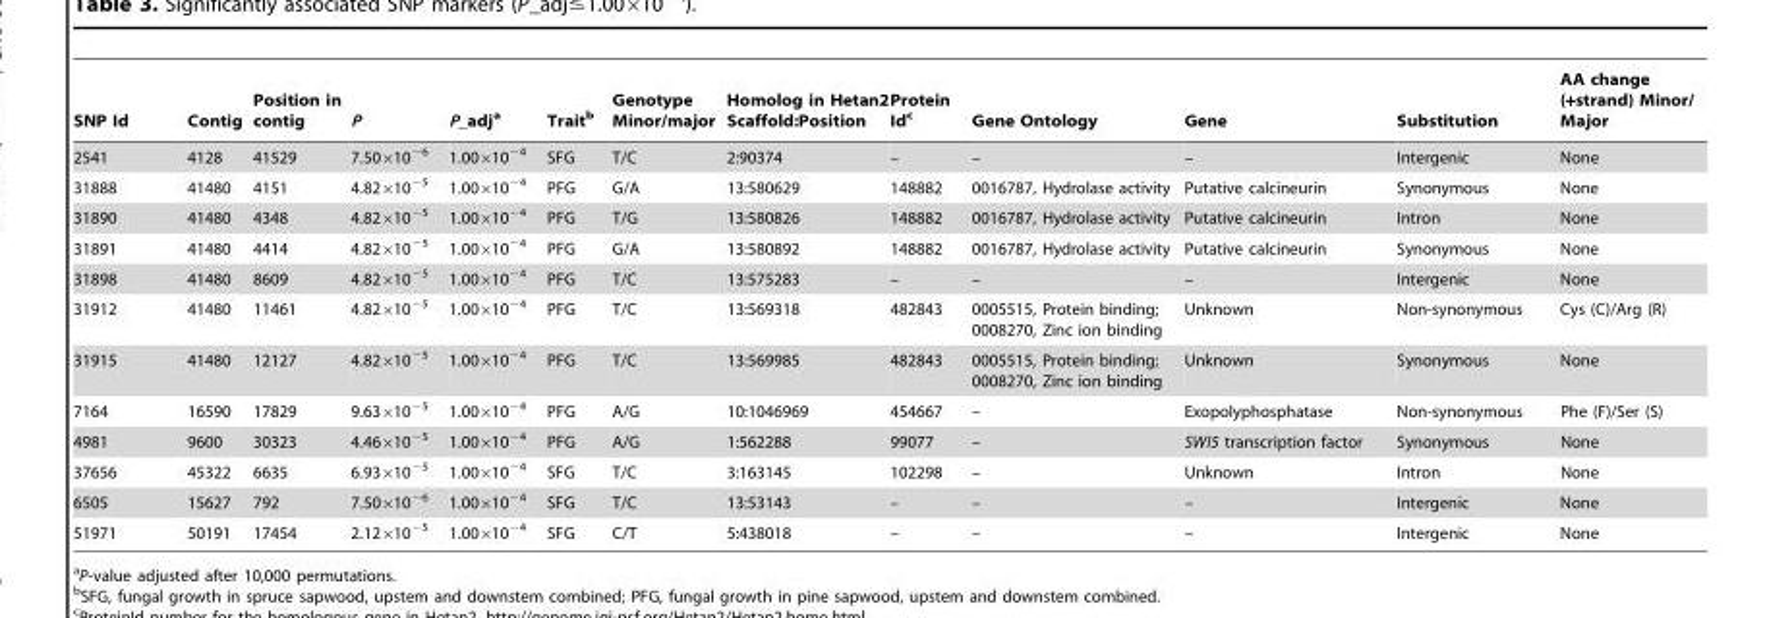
<table><thead><tr><td>SNP Id</td><td>Contig</td><td>Position in contig</td><td>P</td><td>P_adj<sup>a</sup></td><td>Trait<sup>b</sup></td><td>Genotype Minor/major</td><td>Homolog in Hetan2 Scaffold:Position</td><td>Protein Id<sup>c</sup></td><td>Gene Ontology</td><td>Gene</td><td>Substitution</td><td>AA change (+strand) Minor/ Major</td></tr></thead><tbody><tr><td>2541</td><td>4128</td><td>41529</td><td>7.50×10<sup>−6</sup></td><td>1.00×10<sup>−4</sup></td><td>SFG</td><td>T/C</td><td>2:90374</td><td>–</td><td>–</td><td>–</td><td>Intergenic</td><td>None</td></tr><tr><td>31888</td><td>41480</td><td>4151</td><td>4.82×10<sup>−5</sup></td><td>1.00×10<sup>−4</sup></td><td>PFG</td><td>G/A</td><td>13:580629</td><td>148882</td><td>0016787, Hydrolase activity</td><td>Putative calcineurin</td><td>Synonymous</td><td>None</td></tr><tr><td>31890</td><td>41480</td><td>4348</td><td>4.82×10<sup>−5</sup></td><td>1.00×10<sup>−4</sup></td><td>PFG</td><td>T/G</td><td>13:580826</td><td>148882</td><td>0016787, Hydrolase activity</td><td>Putative calcineurin</td><td>Intron</td><td>None</td></tr><tr><td>31891</td><td>41480</td><td>4414</td><td>4.82×10<sup>−5</sup></td><td>1.00×10<sup>−4</sup></td><td>PFG</td><td>G/A</td><td>13:580892</td><td>148882</td><td>0016787, Hydrolase activity</td><td>Putative calcineurin</td><td>Synonymous</td><td>None</td></tr><tr><td>31898</td><td>41480</td><td>8609</td><td>4.82×10<sup>−5</sup></td><td>1.00×10<sup>−4</sup></td><td>PFG</td><td>T/C</td><td>13:575283</td><td>–</td><td>–</td><td>–</td><td>Intergenic</td><td>None</td></tr><tr><td>31912</td><td>41480</td><td>11461</td><td>4.82×10<sup>−5</sup></td><td>1.00×10<sup>−4</sup></td><td>PFG</td><td>T/C</td><td>13:569318</td><td>482843</td><td>0005515, Protein binding; 0008270, Zinc ion binding</td><td>Unknown</td><td>Non-synonymous</td><td>Cys (C)/Arg (R)</td></tr><tr><td>31915</td><td>41480</td><td>12127</td><td>4.82×10<sup>−5</sup></td><td>1.00×10<sup>−4</sup></td><td>PFG</td><td>T/C</td><td>13:569985</td><td>482843</td><td>0005515, Protein binding; 0008270, Zinc ion binding</td><td>Unknown</td><td>Synonymous</td><td>None</td></tr><tr><td>7164</td><td>16590</td><td>17829</td><td>9.63×10<sup>−5</sup></td><td>1.00×10<sup>−4</sup></td><td>PFG</td><td>A/G</td><td>10:1046969</td><td>454667</td><td>–</td><td>Exopolyphosphatase</td><td>Non-synonymous</td><td>Phe (F)/Ser (S)</td></tr><tr><td>4981</td><td>9600</td><td>30323</td><td>4.46×10<sup>−5</sup></td><td>1.00×10<sup>−4</sup></td><td>PFG</td><td>A/G</td><td>1:562288</td><td>99077</td><td>–</td><td>SWI5 transcription factor</td><td>Synonymous</td><td>None</td></tr><tr><td>37656</td><td>45322</td><td>6635</td><td>6.93×10<sup>−5</sup></td><td>1.00×10<sup>−4</sup></td><td>SFG</td><td>T/C</td><td>3:163145</td><td>102298</td><td>–</td><td>Unknown</td><td>Intron</td><td>None</td></tr><tr><td>6505</td><td>15627</td><td>792</td><td>7.50×10<sup>−6</sup></td><td>1.00×10<sup>−4</sup></td><td>SFG</td><td>T/C</td><td>13:53143</td><td>–</td><td>–</td><td>–</td><td>Intergenic</td><td>None</td></tr><tr><td>51971</td><td>50191</td><td>17454</td><td>2.12×10<sup>−5</sup></td><td>1.00×10<sup>−4</sup></td><td>SFG</td><td>C/T</td><td>5:438018</td><td>–</td><td>–</td><td>–</td><td>Intergenic</td><td>None</td></tr></tbody></table>